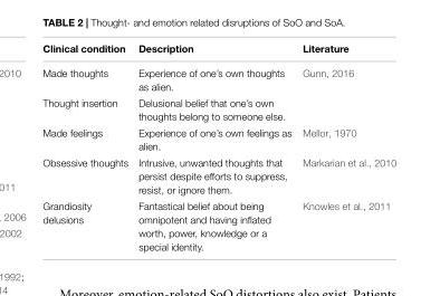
<table><thead><tr><td>Clinical condition</td><td>Description</td><td>Literature</td></tr></thead><tbody><tr><td>Made thoughts</td><td>Experience of one’s own thoughts as alien.</td><td>Gunn, 2016</td></tr><tr><td>Thought insertion</td><td>Delusional belief that one’s own thoughts belong to someone else.</td><td></td></tr><tr><td>Made feelings</td><td>Experience of one’s own feelings as alien.</td><td>Mellor, 1970</td></tr><tr><td>Obsessive thoughts</td><td>Intrusive, unwanted thoughts that persist despite efforts to suppress, resist, or ignore them.</td><td>Markarian et al., 2010</td></tr><tr><td>Grandiosity delusions</td><td>Fantastical belief about being omnipotent and having inflated worth, power, knowledge or a special identity.</td><td>Knowles et al., 2011</td></tr></tbody></table>